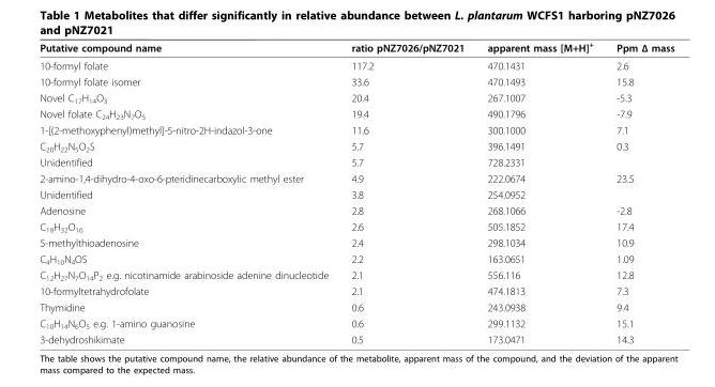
<table><thead><tr><td>Putative compound name</td><td>ratio pNZ7026/pNZ7021</td><td>apparent mass [M+H]<sup>+</sup></td><td>Ppm Δ mass</td></tr></thead><tbody><tr><td>10-formyl folate</td><td>117.2</td><td>470.1431</td><td>2.6</td></tr><tr><td>10-formyl folate isomer</td><td>33.6</td><td>470.1493</td><td>15.8</td></tr><tr><td>Novel C<sub>17</sub>H<sub>14</sub>O<sub>3</sub></td><td>20.4</td><td>267.1007</td><td>-5.3</td></tr><tr><td>Novel folate C<sub>24</sub>H<sub>23</sub>N<sub>7</sub>O<sub>5</sub></td><td>19.4</td><td>490.1796</td><td>-7.9</td></tr><tr><td>1-[(2-methoxyphenyl)methyl]-5-nitro-2H-indazol-3-one</td><td>11.6</td><td>300.1000</td><td>7.1</td></tr><tr><td>C<sub>20</sub>H<sub>22</sub>N<sub>5</sub>O<sub>2</sub>S</td><td>5.7</td><td>396.1491</td><td>0.3</td></tr><tr><td>Unidentified</td><td>5.7</td><td>728.2331</td><td></td></tr><tr><td>2-amino-1,4-dihydro-4-oxo-6-pteridinecarboxylic methyl ester</td><td>4.9</td><td>222.0674</td><td>23.5</td></tr><tr><td>Unidentified</td><td>3.8</td><td>254.0952</td><td></td></tr><tr><td>Adenosine</td><td>2.8</td><td>268.1066</td><td>-2.8</td></tr><tr><td>C<sub>18</sub>H<sub>32</sub>O<sub>16</sub></td><td>2.6</td><td>505.1852</td><td>17.4</td></tr><tr><td>5-methylthioadenosine</td><td>2.4</td><td>298.1034</td><td>10.9</td></tr><tr><td>C<sub>4</sub>H<sub>10</sub>N<sub>4</sub>OS</td><td>2.2</td><td>163.0651</td><td>1.09</td></tr><tr><td>C<sub>12</sub>H<sub>27</sub>N<sub>7</sub>O<sub>14</sub>P<sub>2</sub> e.g. nicotinamide arabinoside adenine dinucleotide</td><td>2.1</td><td>556.116</td><td>12.8</td></tr><tr><td>10-formyltetrahydrofolate</td><td>2.1</td><td>474.1813</td><td>7.3</td></tr><tr><td>Thymidine</td><td>0.6</td><td>243.0938</td><td>9.4</td></tr><tr><td>C<sub>10</sub>H<sub>14</sub>N<sub>6</sub>O<sub>5</sub> e.g. 1-amino guanosine</td><td>0.6</td><td>299.1132</td><td>15.1</td></tr><tr><td>3-dehydroshikimate</td><td>0.5</td><td>173.0471</td><td>14.3</td></tr></tbody></table>